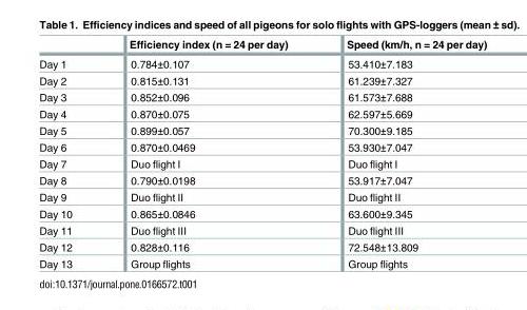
<table><thead><tr><td></td><td>Efficiency index (n = 24 per day)</td><td>Speed (km/h, n = 24 per day)</td></tr></thead><tbody><tr><td>Day 1</td><td>0.784±0.107</td><td>53.410±7.183</td></tr><tr><td>Day 2</td><td>0.815±0.131</td><td>61.239±7.327</td></tr><tr><td>Day 3</td><td>0.852±0.096</td><td>61.573±7.688</td></tr><tr><td>Day 4</td><td>0.870±0.075</td><td>62.597±5.669</td></tr><tr><td>Day 5</td><td>0.899±0.057</td><td>70.300±9.185</td></tr><tr><td>Day 6</td><td>0.870±0.0469</td><td>53.930±7.047</td></tr><tr><td>Day 7</td><td>Duo flight I</td><td>Duo flight I</td></tr><tr><td>Day 8</td><td>0.790±0.0198</td><td>53.917±7.047</td></tr><tr><td>Day 9</td><td>Duo flight II</td><td>Duo flight II</td></tr><tr><td>Day 10</td><td>0.865±0.0846</td><td>63.600±9.345</td></tr><tr><td>Day 11</td><td>Duo flight III</td><td>Duo flight III</td></tr><tr><td>Day 12</td><td>0.828±0.116</td><td>72.548±13.809</td></tr><tr><td>Day 13</td><td>Group flights</td><td>Group flights</td></tr></tbody></table>